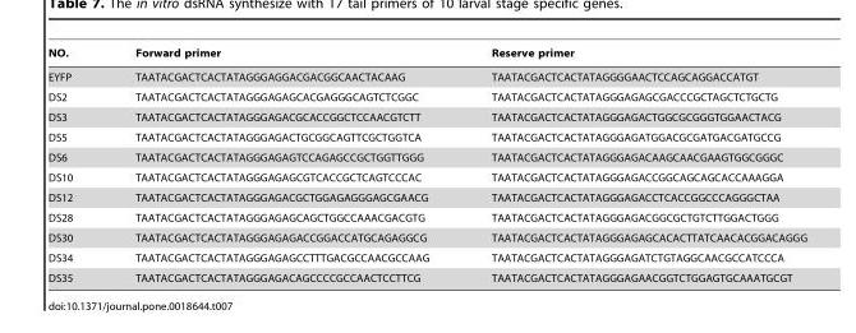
<table><thead><tr><td>NO.</td><td>Forward primer</td><td>Reserve primer</td></tr></thead><tbody><tr><td>EYFP</td><td>TAATACGACTCACTATAGGGAGGACGACGGCAACTACAAG</td><td>TAATACGACTCACTATAGGGGAACTCCAGCAGGACCATGT</td></tr><tr><td>DS2</td><td>TAATACGACTCACTATAGGGAGAGCACGAGGGCAGTCTCGGC</td><td>TAATACGACTCACTATAGGGAGAGCGACCCGCTAGCTCTGCTG</td></tr><tr><td>DS3</td><td>TAATACGACTCACTATAGGGAGACGCACCGGCTCCAACGTCTT</td><td>TAATACGACTCACTATAGGGAGACTGGCGCGGGTGGAACTACG</td></tr><tr><td>DS5</td><td>TAATACGACTCACTATAGGGAGACTGCGGCAGTTCGCTGGTCA</td><td>TAATACGACTCACTATAGGGAGATGGACGCGATGACGATGCCG</td></tr><tr><td>DS6</td><td>TAATACGACTCACTATAGGGAGAGTCCAGAGCCGCTGGTTGGG</td><td>TAATACGACTCACTATAGGGAGACAAGCAACGAAGTGGCGGGC</td></tr><tr><td>DS10</td><td>TAATACGACTCACTATAGGGAGAGCGTCACCGCTCAGTCCCAC</td><td>TAATACGACTCACTATAGGGAGACCGGCAGCAGCACCAAAGGA</td></tr><tr><td>DS12</td><td>TAATACGACTCACTATAGGGAGACGCTGGAGAGGGAGCGAACG</td><td>TAATACGACTCACTATAGGGAGACCTCACCGGCCCAGGGCTAA</td></tr><tr><td>DS28</td><td>TAATACGACTCACTATAGGGAGAGCAGCTGGCCAAACGACGTG</td><td>TAATACGACTCACTATAGGGAGACGGCGCTGTCTTGGACTGGG</td></tr><tr><td>DS30</td><td>TAATACGACTCACTATAGGGAGAGACCGGACCATGCAGAGGCG</td><td>TAATACGACTCACTATAGGGAGAGCACACTTATCAACACGGACAGGG</td></tr><tr><td>DS34</td><td>TAATACGACTCACTATAGGGAGAGCCTTTGACGCCAACGCCAAG</td><td>TAATACGACTCACTATAGGGAGATCTGTAGGCAACGCCATCCCA</td></tr><tr><td>DS35</td><td>TAATACGACTCACTATAGGGAGACAGCCCCGCCAACTCCTTCG</td><td>TAATACGACTCACTATAGGGAGAACGGTCTGGAGTGCAAATGCGT</td></tr></tbody></table>